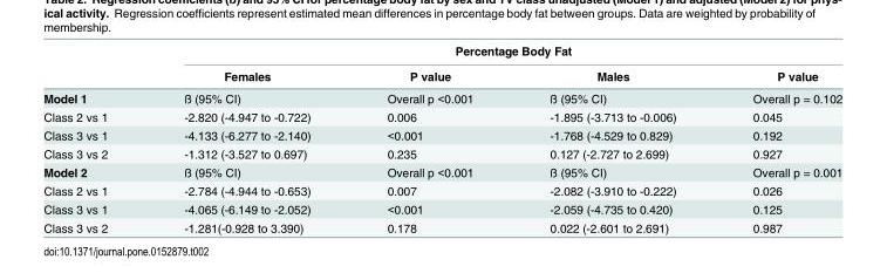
<table><thead><tr><td rowspan="2"></td><td colspan="4">Percentage Body Fat</td></tr><tr><td>Females</td><td>P value</td><td>Males</td><td>P value</td></tr></thead><tbody><tr><td>Model 1</td><td>ß (95% CI)</td><td>Overall p &lt;0.001</td><td>ß (95% CI)</td><td>Overall p = 0.102</td></tr><tr><td>Class 2 vs 1</td><td>-2.820 (-4.947 to -0.722)</td><td>0.006</td><td>-1.895 (-3.713 to -0.006)</td><td>0.045</td></tr><tr><td>Class 3 vs 1</td><td>-4.133 (-6.277 to -2.140)</td><td>&lt;0.001</td><td>-1.768 (-4.529 to 0.829)</td><td>0.192</td></tr><tr><td>Class 3 vs 2</td><td>-1.312 (-3.527 to 0.697)</td><td>0.235</td><td>0.127 (-2.727 to 2.699)</td><td>0.927</td></tr><tr><td>Model 2</td><td>ß (95% CI)</td><td>Overall p &lt;0.001</td><td>ß (95% CI)</td><td>Overall p = 0.001</td></tr><tr><td>Class 2 vs 1</td><td>-2.784 (-4.944 to -0.653)</td><td>0.007</td><td>-2.082 (-3.910 to -0.222)</td><td>0.026</td></tr><tr><td>Class 3 vs 1</td><td>-4.065 (-6.149 to -2.052)</td><td>&lt;0.001</td><td>-2.059 (-4.735 to 0.420)</td><td>0.125</td></tr><tr><td>Class 3 vs 2</td><td>-1.281(-0.928 to 3.390)</td><td>0.178</td><td>0.022 (-2.601 to 2.691)</td><td>0.987</td></tr></tbody></table>